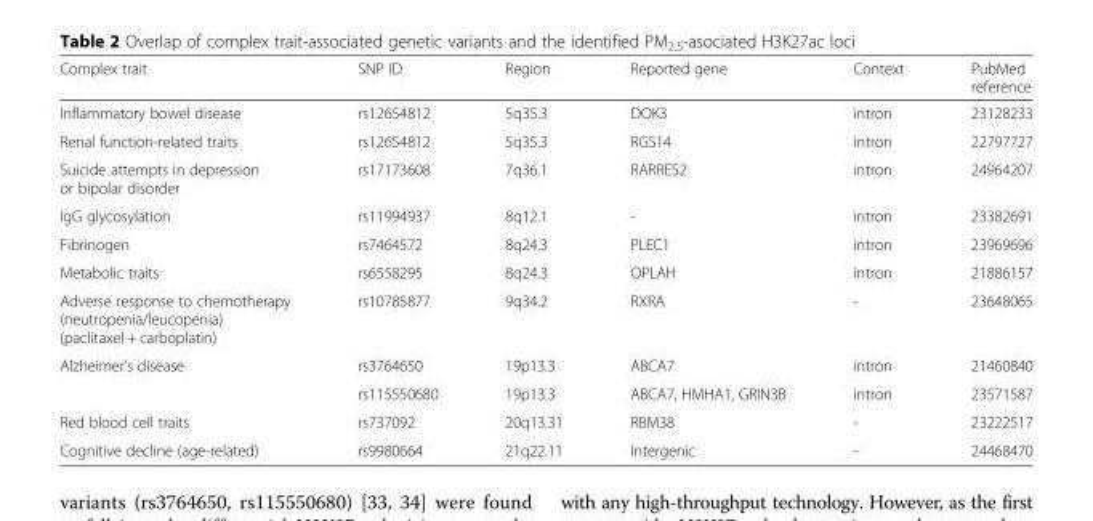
<table><thead><tr><td>Complex trait</td><td>SNP ID</td><td>Region</td><td>Reported gene</td><td>Context</td><td>PubMed reference</td></tr></thead><tbody><tr><td>Inflammatory bowel disease</td><td>rs12654812</td><td>5q35.3</td><td>DOK3</td><td>intron</td><td>23128233</td></tr><tr><td>Renal function-related traits</td><td>rs12654812</td><td>5q35.3</td><td>RGS14</td><td>intron</td><td>22797727</td></tr><tr><td>Suicide attempts in depression or bipolar disorder</td><td>rs17173608</td><td>7q36.1</td><td>RARRES2</td><td>intron</td><td>24964207</td></tr><tr><td>IgG glycosylation</td><td>rs11994937</td><td>8q12.1</td><td>-</td><td>intron</td><td>23382691</td></tr><tr><td>Fibrinogen</td><td>rs7464572</td><td>8q24.3</td><td>PLEC1</td><td>intron</td><td>23969696</td></tr><tr><td>Metabolic traits</td><td>rs6558295</td><td>8q24.3</td><td>OPLAH</td><td>intron</td><td>21886157</td></tr><tr><td>Adverse response to chemotherapy (neutropenia/leucopenia) (paclitaxel + carboplatin)</td><td>rs10785877</td><td>9q34.2</td><td>RXRA</td><td>-</td><td>23648065</td></tr><tr><td rowspan="2">Alzheimer’s disease</td><td>rs3764650</td><td>19p13.3</td><td>ABCA7</td><td>intron</td><td>21460840</td></tr><tr><td>rs115550680</td><td>19p13.3</td><td>ABCA7, HMHA1, GRIN3B</td><td>intron</td><td>23571587</td></tr><tr><td>Red blood cell traits</td><td>rs737092</td><td>20q13.31</td><td>RBM38</td><td>-</td><td>23222517</td></tr><tr><td>Cognitive decline (age-related)</td><td>rs9980664</td><td>21q22.11</td><td>Intergenic</td><td>-</td><td>24468470</td></tr></tbody></table>